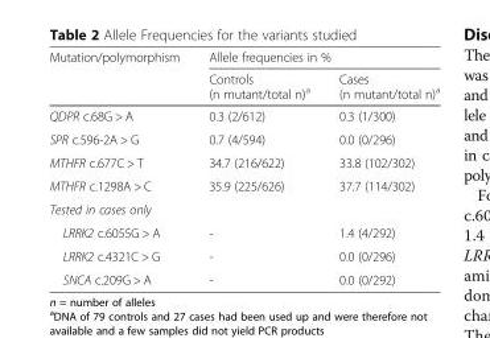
<table><thead><tr><td rowspan="2">Mutation/polymorphism</td><td colspan="2">Allele frequencies in %</td></tr><tr><td>Controls (n mutant/total n)<sup>a</sup></td><td>Cases (n mutant/total n)<sup>a</sup></td></tr></thead><tbody><tr><td>QDPR c.68G &gt; A</td><td>0.3 (2/612)</td><td>0.3 (1/300)</td></tr><tr><td>SPR c.596-2A &gt; G</td><td>0.7 (4/594)</td><td>0.0 (0/296)</td></tr><tr><td>MTHFR c.677C &gt; T</td><td>34.7 (216/622)</td><td>33.8 (102/302)</td></tr><tr><td>MTHFR c.1298A &gt; C</td><td>35.9 (225/626)</td><td>37.7 (114/302)</td></tr><tr><td colspan="3">Tested in cases only</td></tr><tr><td>LRRK2 c.6055G &gt; A</td><td>-</td><td>1.4 (4/292)</td></tr><tr><td>LRRK2 c.4321C &gt; G</td><td>-</td><td>0.0 (0/296)</td></tr><tr><td>SNCA c.209G &gt; A</td><td>-</td><td>0.0 (0/292)</td></tr></tbody></table>